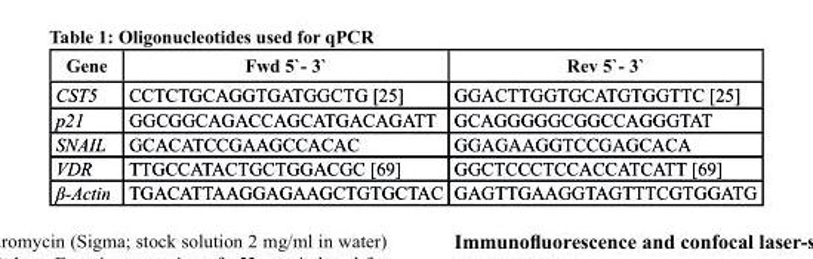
<table><thead><tr><td>Gene</td><td>Fwd 5`- 3`</td><td>rev 5`- 3`</td></tr></thead><tbody><tr><td>CST5</td><td>CCTCTGCAGGTGATGGCTG [25]</td><td>GGACTTGGTGCATGTGGTTC [25]</td></tr><tr><td>p21</td><td>GGCGGCAGACCAGCATGACAGATT</td><td>GCAGGGGGCGGCCAGGGTAT</td></tr><tr><td>SNAIL</td><td>GCACATCCGAAGCCACAC</td><td>GGAGAAGGTCCGAGCACA</td></tr><tr><td>VDR</td><td>TTGCCATACTGCTGGACGC [69]</td><td>GGCTCCCTCCACCATCATT [69]</td></tr><tr><td>β-Actin</td><td>TGACATTAAGGAGAAGCTGTGCTAC</td><td>GAGTTGAAGGTAGTTTCGTGGATG</td></tr></tbody></table>